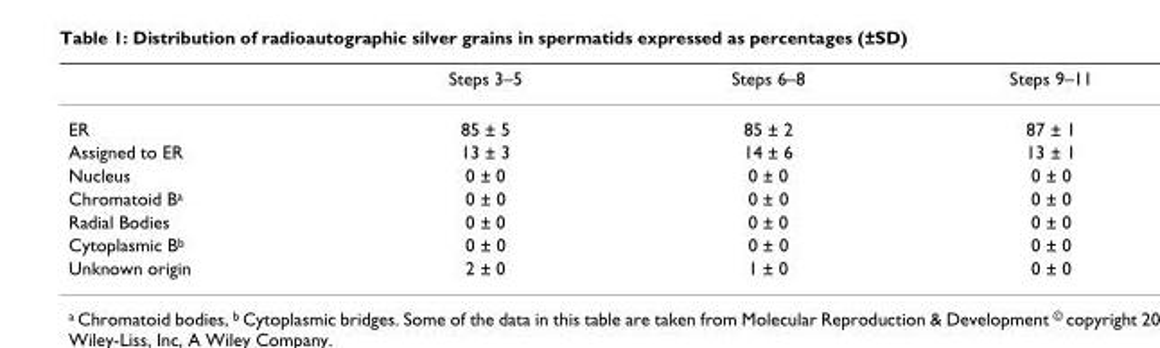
<table><thead><tr><td></td><td>Steps 3–5</td><td>Steps 6–8</td><td>Steps 9–11</td></tr></thead><tbody><tr><td>ER</td><td>85 ± 5</td><td>85 ± 2</td><td>87 ± 1</td></tr><tr><td>Assigned to ER</td><td>13 ± 3</td><td>14 ± 6</td><td>13 ± 1</td></tr><tr><td>Nucleus</td><td>0 ± 0</td><td>0 ± 0</td><td>0 ± 0</td></tr><tr><td>Chromatoid B<sup>a</sup></td><td>0 ± 0</td><td>0 ± 0</td><td>0 ± 0</td></tr><tr><td>Radial Bodies</td><td>0 ± 0</td><td>0 ± 0</td><td>0 ± 0</td></tr><tr><td>Cytoplasmic B<sup>b</sup></td><td>0 ± 0</td><td>0 ± 0</td><td>0 ± 0</td></tr><tr><td>Unknown origin</td><td>2 ± 0</td><td>1 ± 0</td><td>0 ± 0</td></tr></tbody></table>